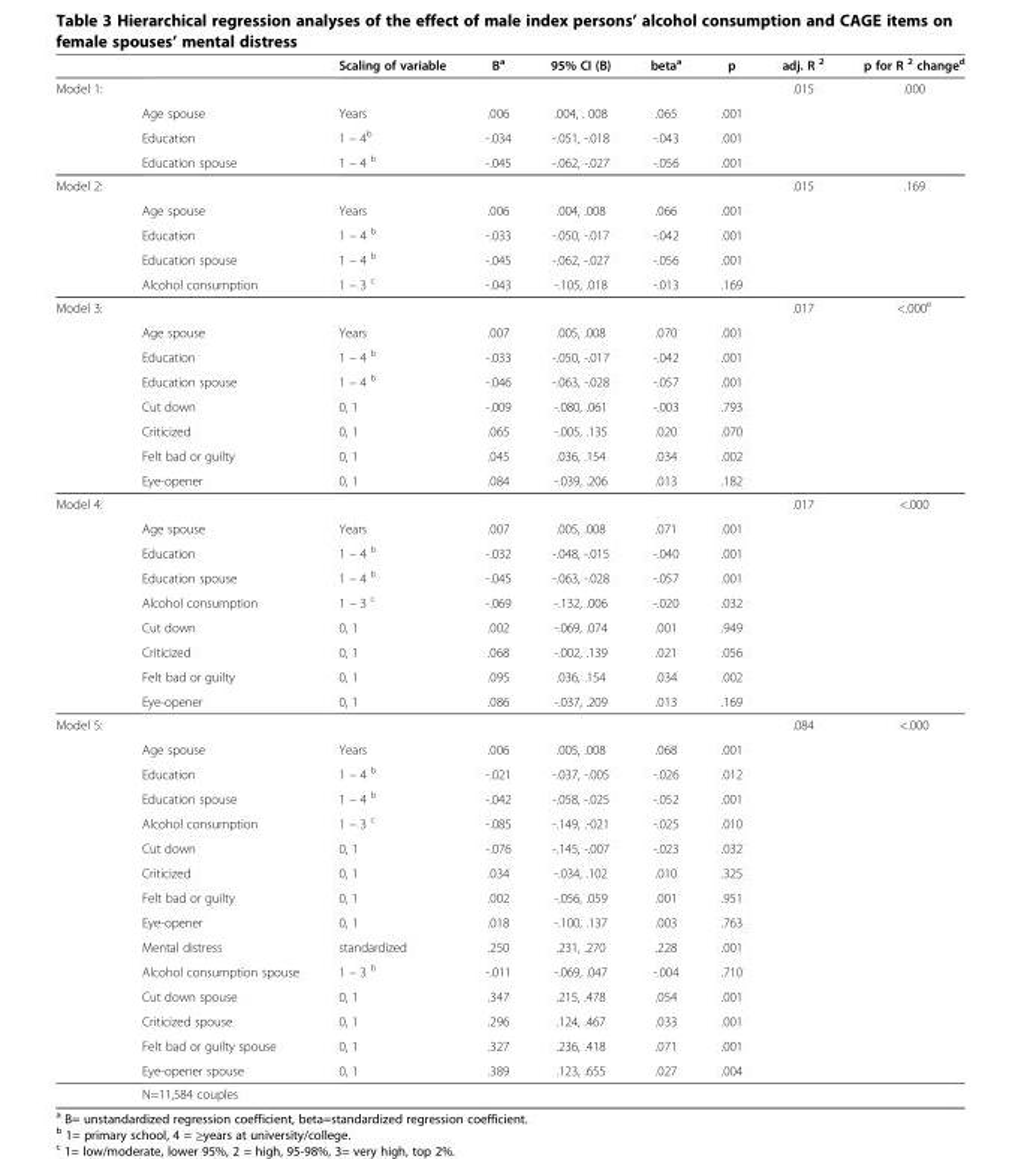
<table><thead><tr><td></td><td></td><td>Scaling of variable</td><td>B<sup>a</sup></td><td>95% CI (B)</td><td>beta<sup>a</sup></td><td>p</td><td>adj. R <sup>2</sup></td><td>p for R <sup>2</sup> change<sup>d</sup></td></tr></thead><tbody><tr><td rowspan="4">Model 1:</td><td></td><td></td><td></td><td></td><td></td><td></td><td>.015</td><td>.000</td></tr><tr><td>Age spouse</td><td>Years</td><td>.006</td><td>.004, . 008</td><td>.065</td><td>.001</td><td rowspan="2"></td><td rowspan="2"></td></tr><tr><td>Education</td><td>1 – 4<sup>b</sup></td><td>-.034</td><td>-.051, -.018</td><td>-.043</td><td>.001</td></tr><tr><td>Education spouse</td><td>1 – 4 <sup>b</sup></td><td>-.045</td><td>-.062, -.027</td><td>-.056</td><td>.001</td><td></td><td></td></tr><tr><td rowspan="5">Model 2:</td><td></td><td></td><td></td><td></td><td></td><td></td><td>.015</td><td>.169</td></tr><tr><td>Age spouse</td><td>Years</td><td>.006</td><td>.004, .008</td><td>.066</td><td>.001</td><td rowspan="3"></td><td rowspan="3"></td></tr><tr><td>Education</td><td>1 – 4 <sup>b</sup></td><td>-.033</td><td>-.050, -.017</td><td>-.042</td><td>.001</td></tr><tr><td>Education spouse</td><td>1 – 4 <sup>b</sup></td><td>-.045</td><td>-.062, -.027</td><td>-.056</td><td>.001</td></tr><tr><td>Alcohol consumption</td><td>1 – 3 <sup>c</sup></td><td>-.043</td><td>-.105, .018</td><td>-.013</td><td>.169</td><td></td><td></td></tr><tr><td rowspan="8">Model 3:</td><td></td><td></td><td></td><td></td><td></td><td></td><td>.017</td><td>&lt;.000<sup>e</sup></td></tr><tr><td>Age spouse</td><td>Years</td><td>.007</td><td>.005, .008</td><td>.070</td><td>.001</td><td rowspan="6"></td><td rowspan="6"></td></tr><tr><td>Education</td><td>1 – 4 <sup>b</sup></td><td>-.033</td><td>-.050, -.017</td><td>-.042</td><td>.001</td></tr><tr><td>Education spouse</td><td>1 – 4 <sup>b</sup></td><td>-.046</td><td>-.063, -.028</td><td>-.057</td><td>.001</td></tr><tr><td>Cut down</td><td>0, 1</td><td>-.009</td><td>-.080, .061</td><td>-.003</td><td>.793</td></tr><tr><td>Criticized</td><td>0, 1</td><td>.065</td><td>-.005, .135</td><td>.020</td><td>.070</td></tr><tr><td>Felt bad or guilty</td><td>0, 1</td><td>.045</td><td>.036, .154</td><td>.034</td><td>.002</td></tr><tr><td>Eye-opener</td><td>0, 1</td><td>.084</td><td>-.039, .206</td><td>.013</td><td>.182</td><td></td><td></td></tr><tr><td rowspan="9">Model 4:</td><td></td><td></td><td></td><td></td><td></td><td></td><td>.017</td><td>&lt;.000</td></tr><tr><td>Age spouse</td><td>Years</td><td>.007</td><td>.005, .008</td><td>.071</td><td>.001</td><td rowspan="7"></td><td rowspan="7"></td></tr><tr><td>Education</td><td>1 – 4 <sup>b</sup></td><td>-.032</td><td>-.048, -.015</td><td>-.040</td><td>.001</td></tr><tr><td>Education spouse</td><td>1 – 4 <sup>b</sup></td><td>-.045</td><td>-.063, -.028</td><td>-.057</td><td>.001</td></tr><tr><td>Alcohol consumption</td><td>1 – 3 <sup>c</sup></td><td>-.069</td><td>-.132, .006</td><td>-.020</td><td>.032</td></tr><tr><td>Cut down</td><td>0, 1</td><td>.002</td><td>-.069, .074</td><td>.001</td><td>.949</td></tr><tr><td>Criticized</td><td>0, 1</td><td>.068</td><td>-.002, .139</td><td>.021</td><td>.056</td></tr><tr><td>Felt bad or guilty</td><td>0, 1</td><td>.095</td><td>.036, .154</td><td>.034</td><td>.002</td></tr><tr><td>Eye-opener</td><td>0, 1</td><td>.086</td><td>-.037, .209</td><td>.013</td><td>.169</td><td></td><td></td></tr><tr><td rowspan="16">Model 5:</td><td></td><td></td><td></td><td></td><td></td><td></td><td>.084</td><td>&lt;.000</td></tr><tr><td>Age spouse</td><td>Years</td><td>.006</td><td>.005, .008</td><td>.068</td><td>.001</td><td rowspan="13"></td><td rowspan="13"></td></tr><tr><td>Education</td><td>1 – 4 <sup>b</sup></td><td>-.021</td><td>-.037, -.005</td><td>-.026</td><td>.012</td></tr><tr><td>Education spouse</td><td>1 – 4 <sup>b</sup></td><td>-.042</td><td>-.058, -.025</td><td>-.052</td><td>.001</td></tr><tr><td>Alcohol consumption</td><td>1 – 3 <sup>c</sup></td><td>-.085</td><td>-.149, .-021</td><td>-.025</td><td>.010</td></tr><tr><td>Cut down</td><td>0, 1</td><td>-.076</td><td>-.145, -.007</td><td>-.023</td><td>.032</td></tr><tr><td>Criticized</td><td>0, 1</td><td>.034</td><td>-.034, .102</td><td>.010</td><td>.325</td></tr><tr><td>Felt bad or guilty</td><td>0, 1</td><td>.002</td><td>-.056, .059</td><td>.001</td><td>.951</td></tr><tr><td>Eye-opener</td><td>0, 1</td><td>.018</td><td>-.100, .137</td><td>.003</td><td>.763</td></tr><tr><td>Mental distress</td><td>standardized</td><td>.250</td><td>.231, .270</td><td>.228</td><td>.001</td></tr><tr><td>Alcohol consumption spouse</td><td>1 – 3 <sup>b</sup></td><td>-.011</td><td>-.069, .047</td><td>-.004</td><td>.710</td></tr><tr><td>Cut down spouse</td><td>0, 1</td><td>.347</td><td>.215, .478</td><td>.054</td><td>.001</td></tr><tr><td>Criticized spouse</td><td>0, 1</td><td>.296</td><td>.124, .467</td><td>.033</td><td>.001</td></tr><tr><td>Felt bad or guilty spouse</td><td>0, 1</td><td>.327</td><td>.236, .418</td><td>.071</td><td>.001</td></tr><tr><td>Eye-opener spouse</td><td>0, 1</td><td>.389</td><td>.123, .655</td><td>.027</td><td>.004</td><td></td><td></td></tr><tr><td>N=11,584 couples</td><td></td><td></td><td></td><td></td><td></td><td></td><td></td></tr></tbody></table>